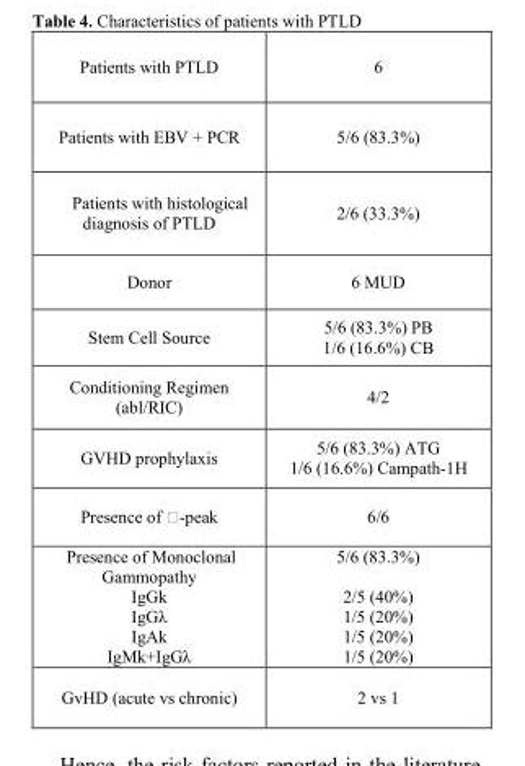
<table><tbody><tr><td>Patients with PTLD</td><td>6</td></tr><tr><td>Patients with EBV + PCR</td><td>5/6 (83.3%)</td></tr><tr><td>Patients with histological diagnosis of PTLD</td><td>2/6 (33.3%)</td></tr><tr><td>Donor</td><td>6 MUD</td></tr><tr><td>Stem Cell Source</td><td>5/6 (83.3%) PB 1/6 (16.6%) CB</td></tr><tr><td>Conditioning Regimen (abl/RIC)</td><td>4/2</td></tr><tr><td>GVHD prophylaxis</td><td>5/6 (83.3%) ATG 1/6 (16.6%) Campath-1H</td></tr><tr><td>Presence of -peak</td><td>6/6</td></tr><tr><td>Presence of Monoclonal Gammopathy</td><td>5/6 (83.3%)</td></tr><tr><td>IgGk</td><td>2/5 (40%)</td></tr><tr><td>IgGλ</td><td>1/5 (20%)</td></tr><tr><td>IgAk</td><td>1/5 (20%)</td></tr><tr><td>IgMk+IgGλ</td><td>1/5 (20%)</td></tr><tr><td>GvHD (acute vs chronic)</td><td>2 vs 1</td></tr></tbody></table>